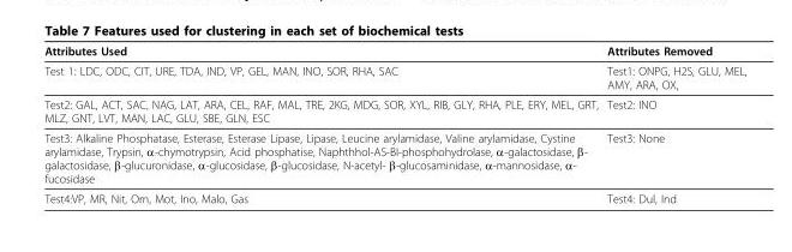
<table><thead><tr><td>Attributes Used</td><td>Attributes Removed</td></tr></thead><tbody><tr><td>Test 1: LDC, ODC, CIT, URE, TDA, IND, VP, GEL, MAN, INO, SOR, RHA, SAC</td><td>Test1: ONPG, H2S, GLU, MEL, AMY, ARA, OX,</td></tr><tr><td>Test2: GAL, ACT, SAC, NAG, LAT, ARA, CEL, RAF, MAL, TRE, 2KG, MDG, SOR, XYL, RIB, GLY, RHA, PLE, ERY, MEL, GRT, MLZ, GNT, LVT, MAN, LAC, GLU, SBE, GLN, ESC</td><td>Test2: INO</td></tr><tr><td>Test3: Alkaline Phosphatase, Esterase, Esterase Lipase, Lipase, Leucine arylamidase, Valine arylamidase, Cystine arylamidase, Trypsin, α-chymotrypsin, Acid phosphatise, Naphthhol-AS-BI-phosphohydrolase, α-galactosidase, β- galactosidase, β-glucuronidase, α-glucosidase, β-glucosidase, N-acetyl- β-glucosaminidase, α-mannosidase, α- fucosidase</td><td>Test3: None</td></tr><tr><td>Test4:VP, MR, Nit, Orn, Mot, Ino, Malo, Gas</td><td>Test4: Dul, Ind</td></tr></tbody></table>